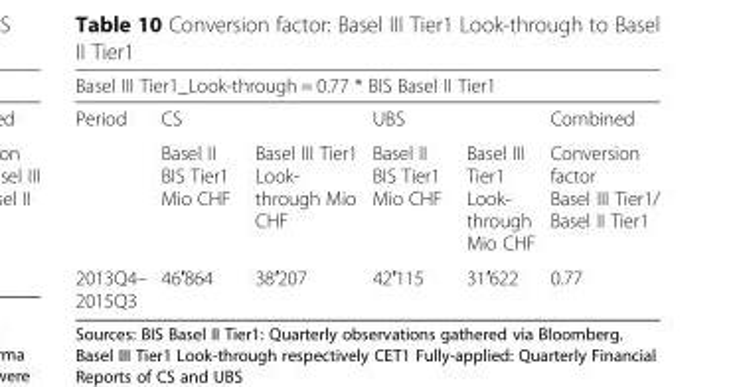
<table><thead><tr><td colspan="6">Basel III Tier1_Look-through = 0.77 * BIS Basel II Tier1</td></tr><tr><td rowspan="2">Period</td><td colspan="2">CS</td><td colspan="2">UBS</td><td rowspan="2">Combined Conversion factor Basel III Tier1/ Basel II Tier1</td></tr><tr><td>Basel II BIS Tier1 Mio CHF</td><td>Basel III Tier1 Look- through Mio CHF</td><td>Basel II BIS Tier1 Mio CHF</td><td>Basel III Tier1 Look- through Mio CHF</td></tr></thead><tbody><tr><td>2013Q4– 2015Q3</td><td>46′864</td><td>38′207</td><td>42′115</td><td>31′622</td><td>0.77</td></tr></tbody></table>